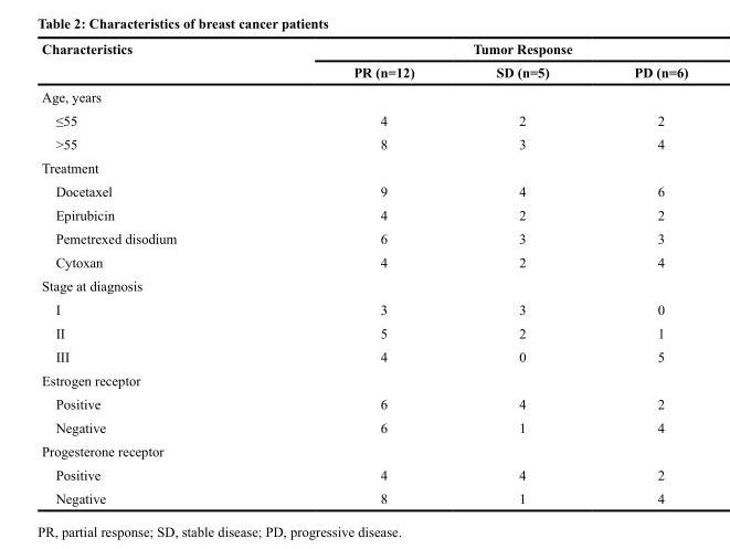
<table><thead><tr><td rowspan="2">Characteristics</td><td colspan="3">Tumor Response</td></tr><tr><td>PR (n=12)</td><td>SD (n=5)</td><td>PD (n=6)</td></tr></thead><tbody><tr><td colspan="4">Age, years</td></tr><tr><td>≤55</td><td>4</td><td>2</td><td>2</td></tr><tr><td>&gt;55</td><td>8</td><td>3</td><td>4</td></tr><tr><td colspan="4">Treatment</td></tr><tr><td>Docetaxel</td><td>9</td><td>4</td><td>6</td></tr><tr><td>Epirubicin</td><td>4</td><td>2</td><td>2</td></tr><tr><td>Pemetrexed disodium</td><td>6</td><td>3</td><td>3</td></tr><tr><td>Cytoxan</td><td>4</td><td>2</td><td>4</td></tr><tr><td colspan="4">Stage at diagnosis</td></tr><tr><td>I</td><td>3</td><td>3</td><td>0</td></tr><tr><td>II</td><td>5</td><td>2</td><td>1</td></tr><tr><td>III</td><td>4</td><td>0</td><td>5</td></tr><tr><td colspan="4">Estrogen receptor</td></tr><tr><td>Positive</td><td>6</td><td>4</td><td>2</td></tr><tr><td>Negative</td><td>6</td><td>1</td><td>4</td></tr><tr><td colspan="4">Progesterone receptor</td></tr><tr><td>Positive</td><td>4</td><td>4</td><td>2</td></tr><tr><td>Negative</td><td>8</td><td>1</td><td>4</td></tr></tbody></table>